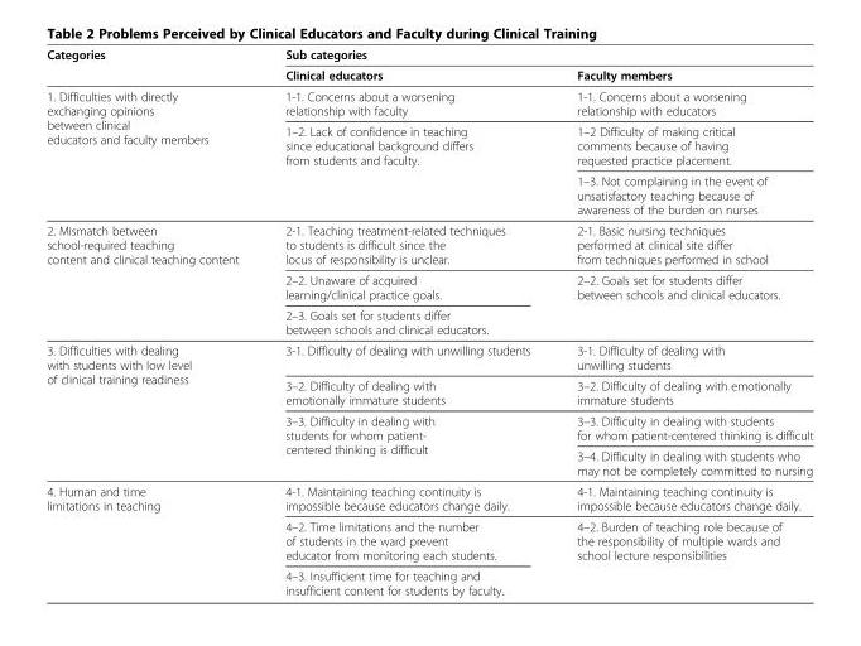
<table><thead><tr><td rowspan="2">Categories</td><td colspan="2">Sub categories</td></tr><tr><td>Clinical educators</td><td>Faculty members</td></tr></thead><tbody><tr><td rowspan="3">1. Difficulties with directly exchanging opinions between clinical educators and faculty members</td><td>1-1. Concerns about a worsening relationship with faculty</td><td>1-1. Concerns about a worsening relationship with educators</td></tr><tr><td rowspan="2">1–2. Lack of confidence in teaching since educational background differs from students and faculty.</td><td>1–2 Difficulty of making critical comments because of having requested practice placement.</td></tr><tr><td>1–3. Not complaining in the event of unsatisfactory teaching because of awareness of the burden on nurses</td></tr><tr><td rowspan="3">2. Mismatch between school-required teaching content and clinical teaching content</td><td>2-1. Teaching treatment-related techniques to students is difficult since the locus of responsibility is unclear.</td><td>2-1. Basic nursing techniques performed at clinical site differ from techniques performed in school</td></tr><tr><td>2–2. Unaware of acquired learning/clinical practice goals.</td><td rowspan="2">2–2. Goals set for students differ between schools and clinical educators.</td></tr><tr><td>2–3. Goals set for students differ between schools and clinical educators.</td></tr><tr><td rowspan="4">3. Difficulties with dealing with students with low level of clinical training readiness</td><td>3-1. Difficulty of dealing with unwilling students</td><td>3-1. Difficulty of dealing with unwilling students</td></tr><tr><td>3–2. Difficulty of dealing with emotionally immature students</td><td>3–2. Difficulty of dealing with emotionally immature students</td></tr><tr><td rowspan="2">3–3. Difficulty in dealing with students for whom patient- centered thinking is difficult</td><td>3–3. Difficulty in dealing with students for whom patient-centered thinking is difficult</td></tr><tr><td>3–4. Difficulty in dealing with students who may not be completely committed to nursing</td></tr><tr><td rowspan="3">4. Human and time limitations in teaching</td><td>4-1. Maintaining teaching continuity is impossible because educators change daily.</td><td>4-1. Maintaining teaching continuity is impossible because educators change daily.</td></tr><tr><td>4–2. Time limitations and the number of students in the ward prevent educator from monitoring each students.</td><td rowspan="2">4–2. Burden of teaching role because of the responsibility of multiple wards and school lecture responsibilities</td></tr><tr><td>4–3. Insufficient time for teaching and insufficient content for students by faculty.</td></tr></tbody></table>